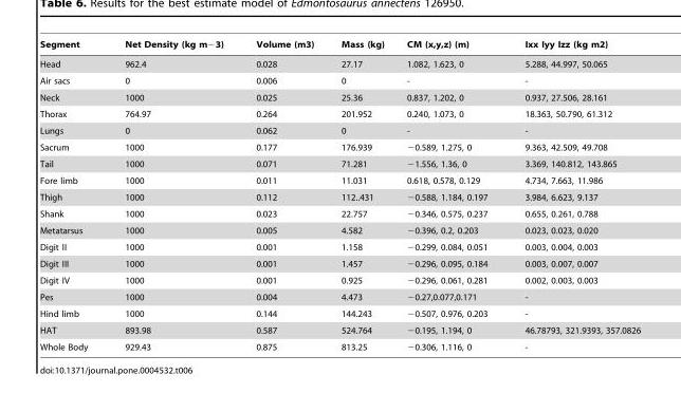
<table><thead><tr><td>Segment</td><td>Net Density (kg m−3)</td><td>Volume (m3)</td><td>Mass (kg)</td><td>CM (x,y,z) (m)</td><td>Ixx Iyy Izz (kg m2)</td></tr></thead><tbody><tr><td>Head</td><td>962.4</td><td>0.028</td><td>27.17</td><td>1.082, 1.623, 0</td><td>5.288, 44.997, 50.065</td></tr><tr><td>Air sacs</td><td>0</td><td>0.006</td><td>0</td><td>-</td><td>-</td></tr><tr><td>Neck</td><td>1000</td><td>0.025</td><td>25.36</td><td>0.837, 1.202, 0</td><td>0.937, 27.506, 28.161</td></tr><tr><td>Thorax</td><td>764.97</td><td>0.264</td><td>201.952</td><td>0.240, 1.073, 0</td><td>18.363, 50.790, 61.312</td></tr><tr><td>Lungs</td><td>0</td><td>0.062</td><td>0</td><td>-</td><td>-</td></tr><tr><td>Sacrum</td><td>1000</td><td>0.177</td><td>176.939</td><td>−0.589, 1.275, 0</td><td>9.363, 42.509, 49.708</td></tr><tr><td>Tail</td><td>1000</td><td>0.071</td><td>71.281</td><td>−1.556, 1.36, 0</td><td>3.369, 140.812, 143.865</td></tr><tr><td>Fore limb</td><td>1000</td><td>0.011</td><td>11.031</td><td>0.618, 0.578, 0.129</td><td>4.734, 7.663, 11.986</td></tr><tr><td>Thigh</td><td>1000</td><td>0.112</td><td>112..431</td><td>−0.588, 1.184, 0.197</td><td>3.984, 6.623, 9.137</td></tr><tr><td>Shank</td><td>1000</td><td>0.023</td><td>22.757</td><td>−0.346, 0.575, 0.237</td><td>0.655, 0.261, 0.788</td></tr><tr><td>Metatarsus</td><td>1000</td><td>0.005</td><td>4.582</td><td>−0.396, 0.2, 0.203</td><td>0.023, 0.023, 0.020</td></tr><tr><td>Digit II</td><td>1000</td><td>0.001</td><td>1.158</td><td>−0.299, 0.084, 0.051</td><td>0.003, 0.004, 0.003</td></tr><tr><td>Digit III</td><td>1000</td><td>0.001</td><td>1.457</td><td>−0.296, 0.095, 0.184</td><td>0.003, 0.007, 0.007</td></tr><tr><td>Digit IV</td><td>1000</td><td>0.001</td><td>0.925</td><td>−0.296, 0.061, 0.281</td><td>0.002, 0.003, 0.003</td></tr><tr><td>Pes</td><td>1000</td><td>0.004</td><td>4.473</td><td>−0.27,0.077,0.171</td><td>-</td></tr><tr><td>Hind limb</td><td>1000</td><td>0.144</td><td>144.243</td><td>−0.507, 0.976, 0.203</td><td>-</td></tr><tr><td>HAT</td><td>893.98</td><td>0.587</td><td>524.764</td><td>−0.195, 1.194, 0</td><td>46.78793, 321.9393, 357.0826</td></tr><tr><td>Whole Body</td><td>929.43</td><td>0.875</td><td>813.25</td><td>−0.306, 1.116, 0</td><td>-</td></tr></tbody></table>